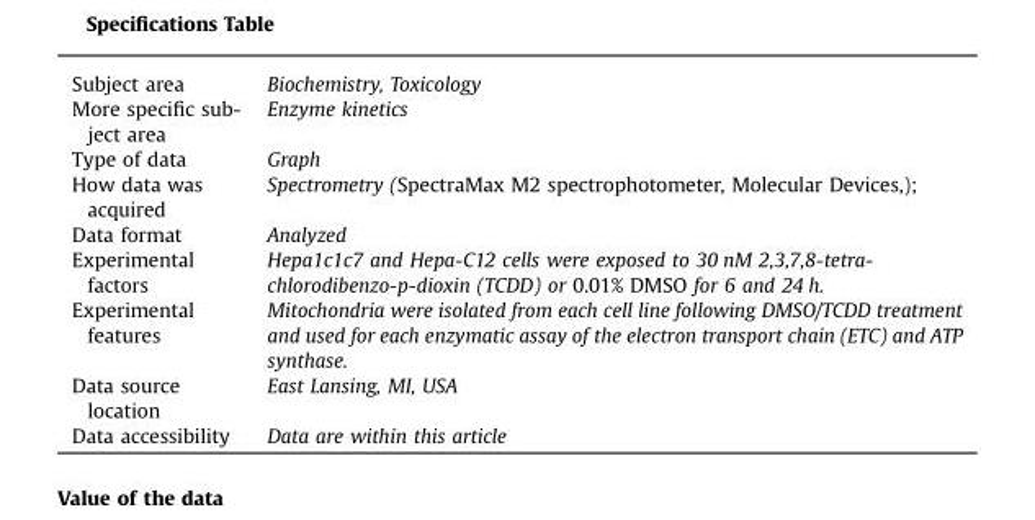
<table><tbody><tr><td>Subject area</td><td>Biochemistry, Toxicology</td></tr><tr><td>More specific sub- ject area</td><td>Enzyme kinetics</td></tr><tr><td>Type of data</td><td>Graph</td></tr><tr><td>How data was acquired</td><td>Spectrometry (SpectraMax M2 spectrophotometer, Molecular Devices,);</td></tr><tr><td>Data format</td><td>Analyzed</td></tr><tr><td>Experimental factors</td><td>Hepa1c1c7 and Hepa-C12 cells were exposed to 30 nM 2,3,7,8-tetra- chlorodibenzo-p-dioxin (TCDD) or 0.01% DMSO for 6 and 24 h.</td></tr><tr><td>Experimental features</td><td>Mitochondria were isolated from each cell line following DMSO/TCDD treatment and used for each enzymatic assay of the electron transport chain (ETC) and ATP synthase.</td></tr><tr><td>Data source location</td><td>East Lansing, MI, USA</td></tr><tr><td>Data accessibility</td><td>Data are within this article</td></tr></tbody></table>